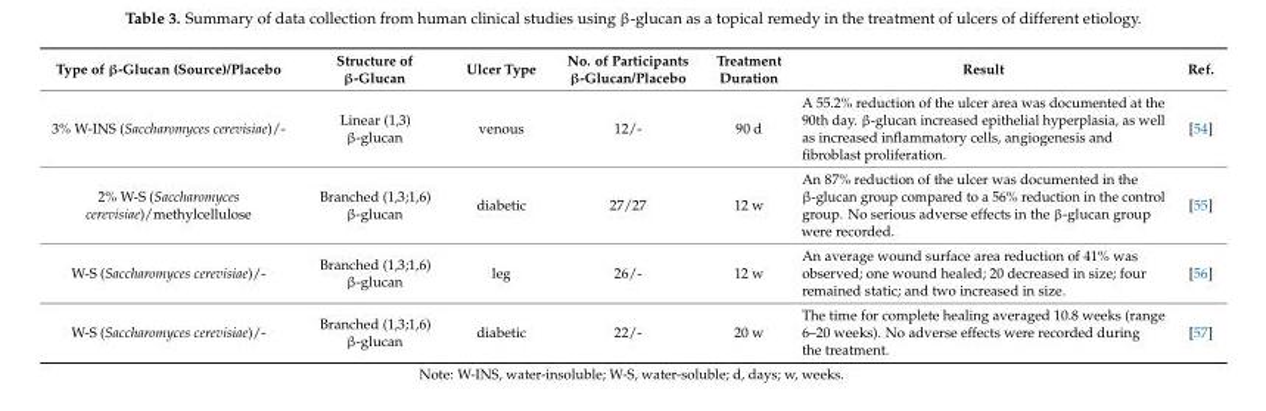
<table><thead><tr><td>Type of β-Glucan (Source)/Placebo</td><td>Structure of β-Glucan</td><td>Ulcer Type</td><td>No. of Participants β-Glucan/Placebo</td><td>Treatment Duration</td><td>Result</td><td>Ref.</td></tr></thead><tbody><tr><td>3% W-INS (Saccharomyces cerevisiae)/-</td><td>Linear (1,3) β-glucan</td><td>venous</td><td>12/-</td><td>90 d</td><td>A 55.2% reduction of the ulcer area was documented at the 90th day. β-glucan increased epithelial hyperplasia, as well as increased inflammatory cells, angiogenesis and fibroblast proliferation.</td><td>[54]</td></tr><tr><td>2% W-S (Saccharomyces cerevisiae)/methylcellulose</td><td>Branched (1,3;1,6) β-glucan</td><td>diabetic</td><td>27/27</td><td>12 w</td><td>An 87% reduction of the ulcer was documented in the β-glucan group compared to a 56% reduction in the control group. No serious adverse effects in the β-glucan group were recorded.</td><td>[55]</td></tr><tr><td>W-S (Saccharomyces cerevisiae)/-</td><td>Branched (1,3;1,6) β-glucan</td><td>leg</td><td>26/-</td><td>12 w</td><td>An average wound surface area reduction of 41% was observed; one wound healed; 20 decreased in size; four remained static; and two increased in size.</td><td>[56]</td></tr><tr><td>W-S (Saccharomyces cerevisiae)/-</td><td>Branched (1,3;1,6) β-glucan</td><td>diabetic</td><td>22/-</td><td>20 w</td><td>The time for complete healing averaged 10.8 weeks (range 6–20 weeks). No adverse effects were recorded during the treatment.</td><td>[57]</td></tr></tbody></table>